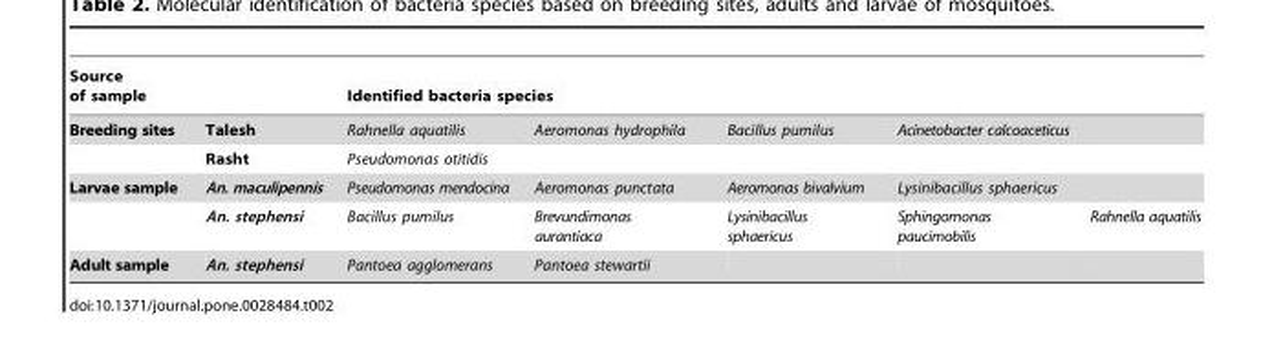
<table><thead><tr><td rowspan="2">Source of sample Breeding sites</td><td rowspan="2">Talesh</td><td colspan="5">Identified bacteria species</td></tr><tr><td>Rahnella aquatilis</td><td>Aeromonas hydrophila</td><td>Bacillus pumilus</td><td>Acinetobacter calcoaceticus</td><td></td></tr></thead><tbody><tr><td></td><td>Rasht</td><td>Pseudomonas otitidis</td><td></td><td></td><td></td><td></td></tr><tr><td rowspan="2">Larvae sample</td><td>An. maculipennis</td><td>Pseudomonas mendocina</td><td>Aeromonas punctata</td><td>Aeromonas bivalvium</td><td>Lysinibacillus sphaericus</td><td></td></tr><tr><td>An. stephensi</td><td>Bacillus pumilus</td><td>Brevundimonas aurantiaca</td><td>Lysinibacillus sphaericus</td><td>Sphingomonas paucimobilis</td><td>Rahnella aquatilis</td></tr><tr><td>Adult sample</td><td>An. stephensi</td><td>Pantoea agglomerans</td><td>Pantoea stewartii</td><td></td><td></td><td></td></tr></tbody></table>